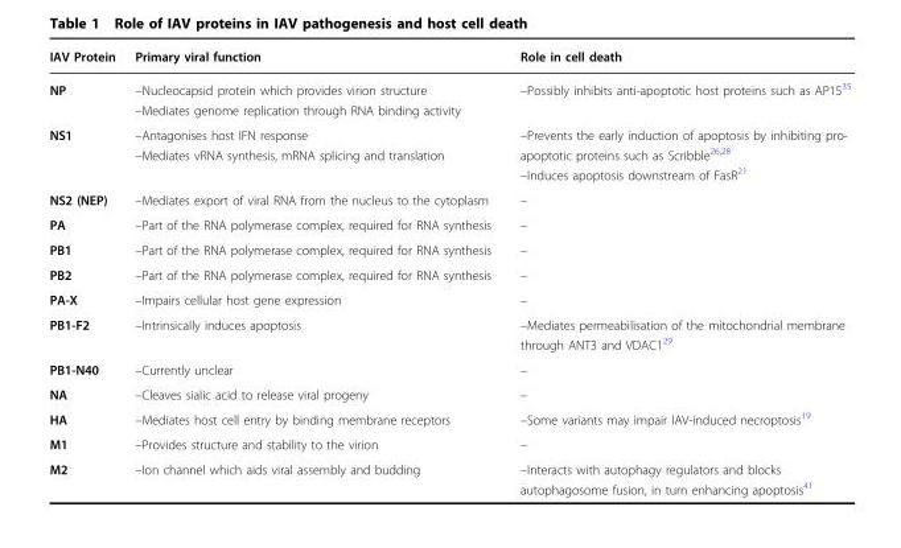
<table><thead><tr><td>IAV Protein</td><td>Primary viral function</td><td>Role in cell death</td></tr></thead><tbody><tr><td>NP</td><td>–Nucleocapsid protein which provides virion structure –Mediates genome replication through RNA binding activity</td><td>–Possibly inhibits anti-apoptotic host proteins such as AP15<sup>35</sup></td></tr><tr><td>NS1</td><td>–Antagonises host IFN response –Mediates vRNA synthesis, mRNA splicing and translation</td><td>–Prevents the early induction of apoptosis by inhibiting pro- apoptotic proteins such as Scribble<sup>26,28</sup> –Induces apoptosis downstream of FasR<sup>21</sup></td></tr><tr><td>NS2 (NEP)</td><td>–Mediates export of viral RNA from the nucleus to the cytoplasm</td><td>–</td></tr><tr><td>PA</td><td>–Part of the RNA polymerase complex, required for RNA synthesis</td><td>–</td></tr><tr><td>PB1</td><td>–Part of the RNA polymerase complex, required for RNA synthesis</td><td>–</td></tr><tr><td>PB2</td><td>–Part of the RNA polymerase complex, required for RNA synthesis</td><td>–</td></tr><tr><td>PA-X</td><td>–Impairs cellular host gene expression</td><td>–</td></tr><tr><td>PB1-F2</td><td>–Intrinsically induces apoptosis</td><td>–Mediates permeabilisation of the mitochondrial membrane through ANT3 and VDAC1<sup>29</sup></td></tr><tr><td>PB1-N40</td><td>–Currently unclear</td><td>–</td></tr><tr><td>NA</td><td>–Cleaves sialic acid to release viral progeny</td><td>–</td></tr><tr><td>HA</td><td>–Mediates host cell entry by binding membrane receptors</td><td>–Some variants may impair IAV-induced necroptosis<sup>19</sup></td></tr><tr><td>M1</td><td>–Provides structure and stability to the virion</td><td>–</td></tr><tr><td>M2</td><td>–Ion channel which aids viral assembly and budding</td><td>–Interacts with autophagy regulators and blocks autophagosome fusion, in turn enhancing apoptosis<sup>41</sup></td></tr></tbody></table>